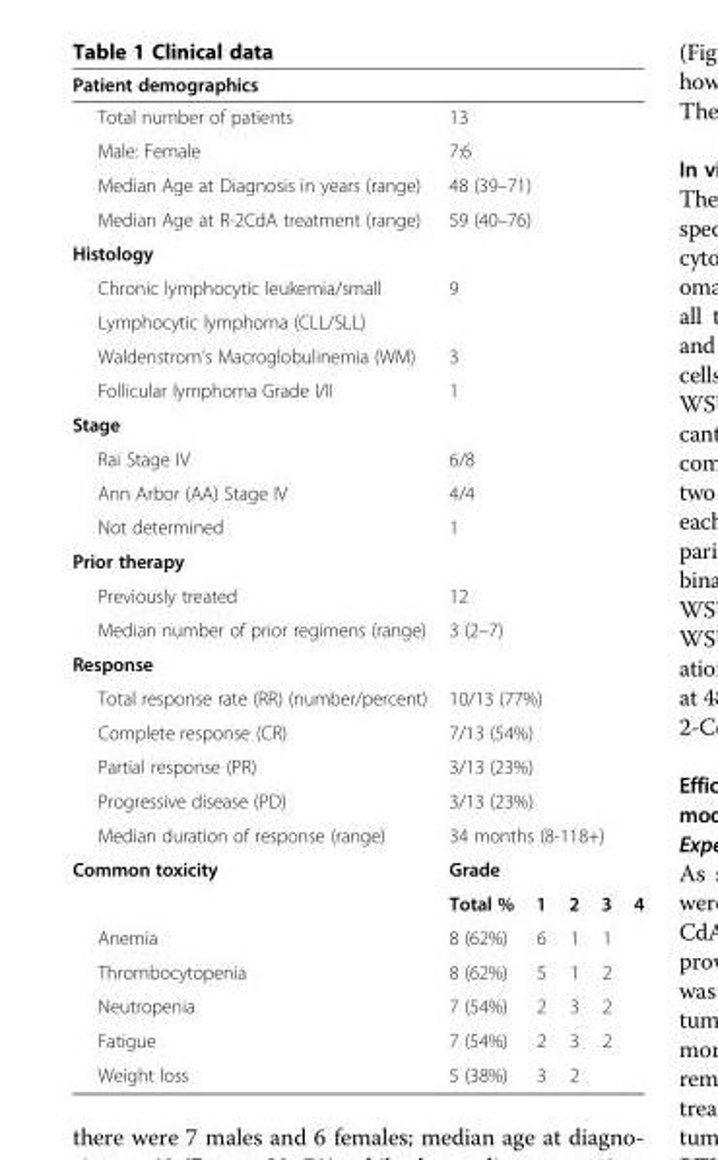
<table><thead><tr><td>Patient demographics</td><td></td><td></td><td></td><td></td><td></td></tr></thead><tbody><tr><td>Total number of patients</td><td colspan="5">13</td></tr><tr><td>Male: Female</td><td colspan="5">7:6</td></tr><tr><td>Median Age at Diagnosis in years (range)</td><td colspan="5">48 (39–71)</td></tr><tr><td>Median Age at R-2CdA treatment (range)</td><td colspan="5">59 (40–76)</td></tr><tr><td colspan="6">Histology</td></tr><tr><td>Chronic lymphocytic leukemia/small</td><td colspan="5">9</td></tr><tr><td colspan="6">Lymphocytic lymphoma (CLL/SLL)</td></tr><tr><td>Waldenstrom’s Macroglobulinemia (WM)</td><td colspan="5">3</td></tr><tr><td>Follicular lymphoma Grade I/II</td><td colspan="5">1</td></tr><tr><td colspan="6">Stage</td></tr><tr><td>Rai Stage IV</td><td colspan="5">6/8</td></tr><tr><td>Ann Arbor (AA) Stage IV</td><td colspan="5">4/4</td></tr><tr><td>Not determined</td><td colspan="5">1</td></tr><tr><td colspan="6">Prior therapy</td></tr><tr><td>Previously treated</td><td colspan="5">12</td></tr><tr><td>Median number of prior regimens (range)</td><td colspan="5">3 (2–7)</td></tr><tr><td colspan="6">Response</td></tr><tr><td>Total response rate (RR) (number/percent)</td><td colspan="5">10/13 (77%)</td></tr><tr><td>Complete response (CR)</td><td colspan="5">7/13 (54%)</td></tr><tr><td>Partial response (PR)</td><td colspan="5">3/13 (23%)</td></tr><tr><td>Progressive disease (PD)</td><td colspan="5">3/13 (23%)</td></tr><tr><td>Median duration of response (range)</td><td colspan="5">34 months (8-118+)</td></tr><tr><td rowspan="2">Common toxicity</td><td colspan="5">Grade</td></tr><tr><td>Total %</td><td>1</td><td>2</td><td>3</td><td>4</td></tr><tr><td>Anemia</td><td>8 (62%)</td><td>6</td><td>1</td><td>1</td><td></td></tr><tr><td>Thrombocytopenia</td><td>8 (62%)</td><td>5</td><td>1</td><td>2</td><td></td></tr><tr><td>Neutropenia</td><td>7 (54%)</td><td>2</td><td>3</td><td>2</td><td></td></tr><tr><td>Fatigue</td><td>7 (54%)</td><td>2</td><td>3</td><td>2</td><td></td></tr><tr><td>Weight loss</td><td>5 (38%)</td><td>3</td><td>2</td><td></td><td></td></tr></tbody></table>